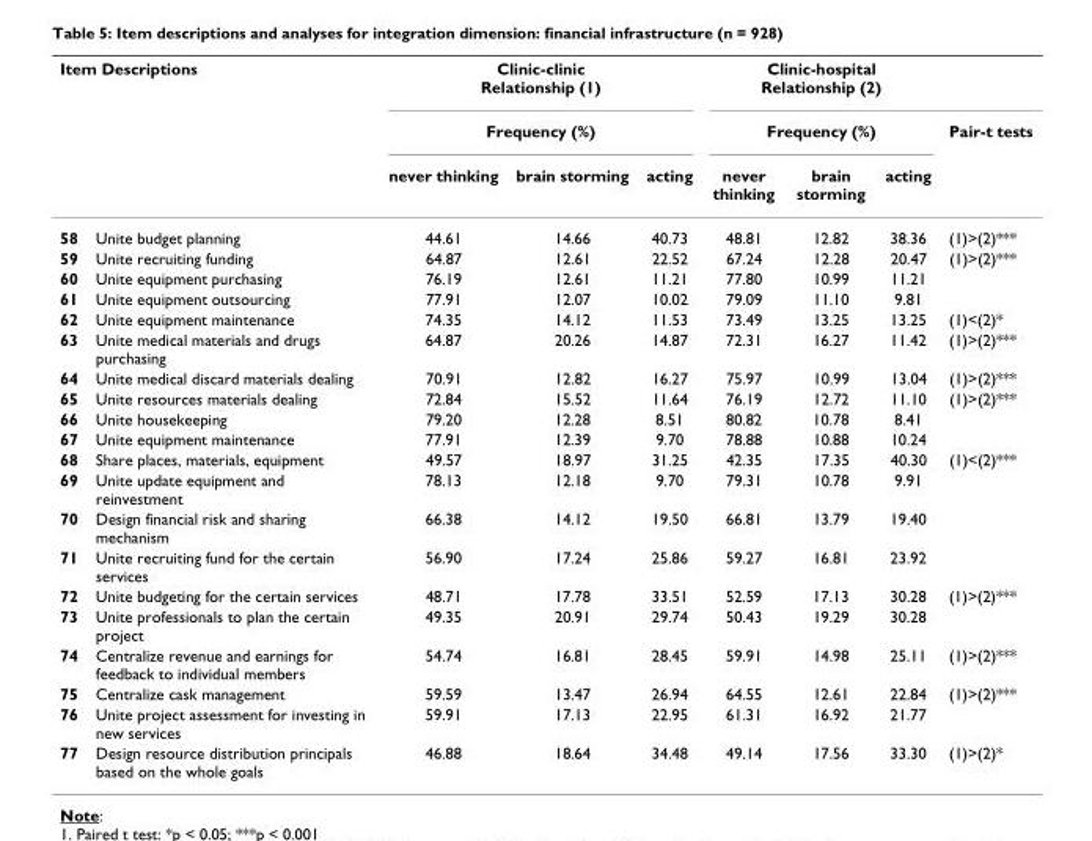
<table><thead><tr><td colspan="2">Item Descriptions</td><td rowspan="2" colspan="3">Clinic-clinic Relationship (1) Frequency (%)</td><td rowspan="2" colspan="3">Clinic-hospital Relationship (2) Frequency (%)</td><td rowspan="3">Pair-t tests</td></tr><tr><td rowspan="2"></td><td rowspan="2"></td></tr><tr><td>never thinking</td><td>brain storming</td><td>acting</td><td>never thinking</td><td>brain storming</td><td>acting</td></tr></thead><tbody><tr><td>58</td><td>Unite budget planning</td><td>44.61</td><td>14.66</td><td>40.73</td><td>48.81</td><td>12.82</td><td>38.36</td><td>(1)&gt;(2)***</td></tr><tr><td>59</td><td>Unite recruiting funding</td><td>64.87</td><td>12.61</td><td>22.52</td><td>67.24</td><td>12.28</td><td>20.47</td><td>(1)&gt;(2)***</td></tr><tr><td>60</td><td>Unite equipment purchasing</td><td>76.19</td><td>12.61</td><td>11.21</td><td>77.80</td><td>10.99</td><td>11.21</td><td></td></tr><tr><td>61</td><td>Unite equipment outsourcing</td><td>77.91</td><td>12.07</td><td>10.02</td><td>79.09</td><td>11.10</td><td>9.81</td><td></td></tr><tr><td>62</td><td>Unite equipment maintenance</td><td>74.35</td><td>14.12</td><td>11.53</td><td>73.49</td><td>13.25</td><td>13.25</td><td>(1)&lt;(2)*</td></tr><tr><td>63</td><td>Unite medical materials and drugs purchasing</td><td>64.87</td><td>20.26</td><td>14.87</td><td>72.31</td><td>16.27</td><td>11.42</td><td>(1)&gt;(2)***</td></tr><tr><td>64</td><td>Unite medical discard materials dealing</td><td>70.91</td><td>12.82</td><td>16.27</td><td>75.97</td><td>10.99</td><td>13.04</td><td>(1)&gt;(2)***</td></tr><tr><td>65</td><td>Unite resources materials dealing</td><td>72.84</td><td>15.52</td><td>11.64</td><td>76.19</td><td>12.72</td><td>11.10</td><td>(1)&gt;(2)***</td></tr><tr><td>66</td><td>Unite housekeeping</td><td>79.20</td><td>12.28</td><td>8.51</td><td>80.82</td><td>10.78</td><td>8.41</td><td></td></tr><tr><td>67</td><td>Unite equipment maintenance</td><td>77.91</td><td>12.39</td><td>9.70</td><td>78.88</td><td>10.88</td><td>10.24</td><td></td></tr><tr><td>68</td><td>Share places, materials, equipment</td><td>49.57</td><td>18.97</td><td>31.25</td><td>42.35</td><td>17.35</td><td>40.30</td><td>(1)&lt;(2)***</td></tr><tr><td>69</td><td>Unite update equipment and reinvestment</td><td>78.13</td><td>12.18</td><td>9.70</td><td>79.31</td><td>10.78</td><td>9.91</td><td></td></tr><tr><td>70</td><td>Design financial risk and sharing mechanism</td><td>66.38</td><td>14.12</td><td>19.50</td><td>66.81</td><td>13.79</td><td>19.40</td><td></td></tr><tr><td>71</td><td>Unite recruiting fund for the certain services</td><td>56.90</td><td>17.24</td><td>25.86</td><td>59.27</td><td>16.81</td><td>23.92</td><td></td></tr><tr><td>72</td><td>Unite budgeting for the certain services</td><td>48.71</td><td>17.78</td><td>33.51</td><td>52.59</td><td>17.13</td><td>30.28</td><td>(1)&gt;(2)***</td></tr><tr><td>73</td><td>Unite professionals to plan the certain project</td><td>49.35</td><td>20.91</td><td>29.74</td><td>50.43</td><td>19.29</td><td>30.28</td><td></td></tr><tr><td>74</td><td>Centralize revenue and earnings for feedback to individual members</td><td>54.74</td><td>16.81</td><td>28.45</td><td>59.91</td><td>14.98</td><td>25.11</td><td>(1)&gt;(2)***</td></tr><tr><td>75</td><td>Centralize cask management</td><td>59.59</td><td>13.47</td><td>26.94</td><td>64.55</td><td>12.61</td><td>22.84</td><td>(1)&gt;(2)***</td></tr><tr><td>76</td><td>Unite project assessment for investing in new services</td><td>59.91</td><td>17.13</td><td>22.95</td><td>61.31</td><td>16.92</td><td>21.77</td><td></td></tr><tr><td>77</td><td>Design resource distribution principals based on the whole goals</td><td>46.88</td><td>18.64</td><td>34.48</td><td>49.14</td><td>17.56</td><td>33.30</td><td>(1)&gt;(2)*</td></tr></tbody></table>